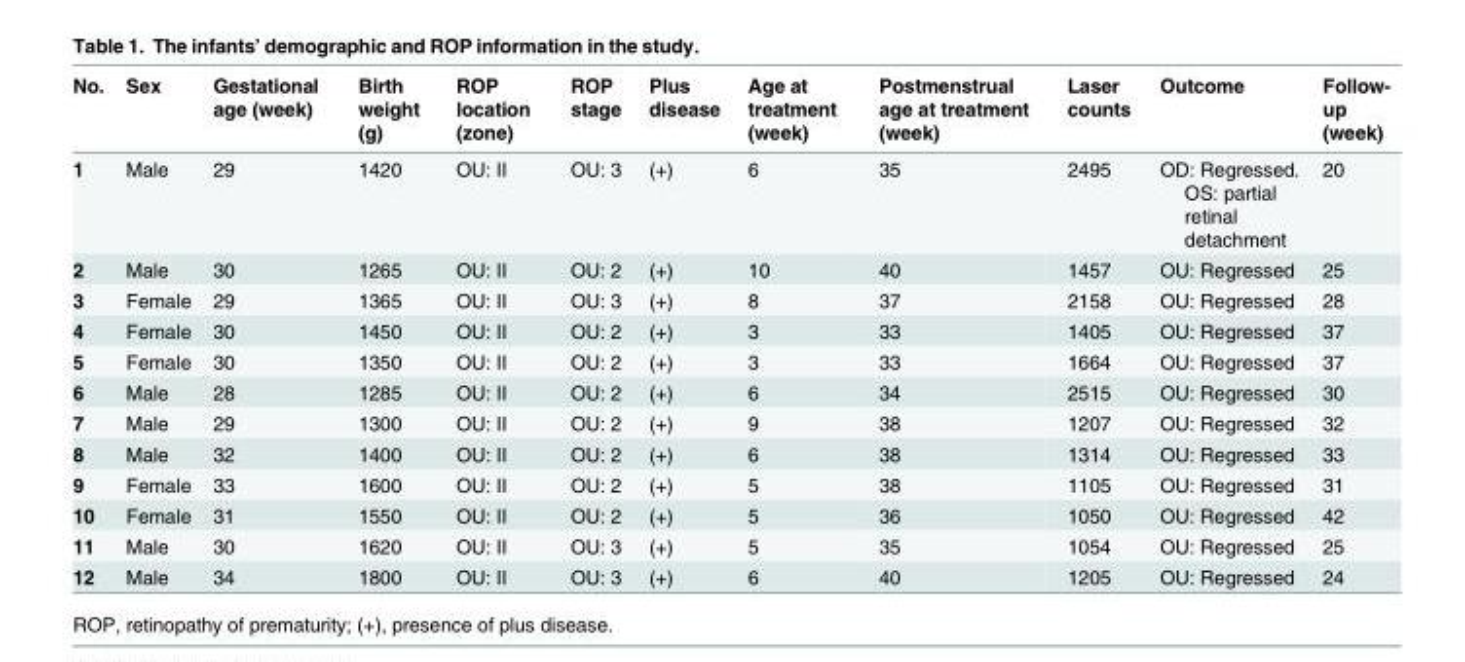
<table><thead><tr><td>No.</td><td>Sex</td><td>Gestational age (week)</td><td>Birth weight (g)</td><td>ROP location (zone)</td><td>ROP stage</td><td>Plus disease</td><td>Age at treatment (week)</td><td>Postmenstrual age at treatment (week)</td><td>Laser counts</td><td>Outcome</td><td>Follow- up (week)</td></tr></thead><tbody><tr><td>1</td><td>Male</td><td>29</td><td>1420</td><td>OU: II</td><td>OU: 3</td><td>(+)</td><td>6</td><td>35</td><td>2495</td><td>OD: Regressed. OS: partial retinal detachment</td><td>20</td></tr><tr><td>2</td><td>Male</td><td>30</td><td>1265</td><td>OU: II</td><td>OU: 2</td><td>(+)</td><td>10</td><td>40</td><td>1457</td><td>OU: Regressed</td><td>25</td></tr><tr><td>3</td><td>Female</td><td>29</td><td>1365</td><td>OU: II</td><td>OU: 3</td><td>(+)</td><td>8</td><td>37</td><td>2158</td><td>OU: Regressed</td><td>28</td></tr><tr><td>4</td><td>Female</td><td>30</td><td>1450</td><td>OU: II</td><td>OU: 2</td><td>(+)</td><td>3</td><td>33</td><td>1405</td><td>OU: Regressed</td><td>37</td></tr><tr><td>5</td><td>Female</td><td>30</td><td>1350</td><td>OU: II</td><td>OU: 2</td><td>(+)</td><td>3</td><td>33</td><td>1664</td><td>OU: Regressed</td><td>37</td></tr><tr><td>6</td><td>Male</td><td>28</td><td>1285</td><td>OU: II</td><td>OU: 2</td><td>(+)</td><td>6</td><td>34</td><td>2515</td><td>OU: Regressed</td><td>30</td></tr><tr><td>7</td><td>Male</td><td>29</td><td>1300</td><td>OU: II</td><td>OU: 2</td><td>(+)</td><td>9</td><td>38</td><td>1207</td><td>OU: Regressed</td><td>32</td></tr><tr><td>8</td><td>Male</td><td>32</td><td>1400</td><td>OU: II</td><td>OU: 2</td><td>(+)</td><td>6</td><td>38</td><td>1314</td><td>OU: Regressed</td><td>33</td></tr><tr><td>9</td><td>Female</td><td>33</td><td>1600</td><td>OU: II</td><td>OU: 2</td><td>(+)</td><td>5</td><td>38</td><td>1105</td><td>OU: Regressed</td><td>31</td></tr><tr><td>10</td><td>Female</td><td>31</td><td>1550</td><td>OU: II</td><td>OU: 2</td><td>(+)</td><td>5</td><td>36</td><td>1050</td><td>OU: Regressed</td><td>42</td></tr><tr><td>11</td><td>Male</td><td>30</td><td>1620</td><td>OU: II</td><td>OU: 3</td><td>(+)</td><td>5</td><td>35</td><td>1054</td><td>OU: Regressed</td><td>25</td></tr><tr><td>12</td><td>Male</td><td>34</td><td>1800</td><td>OU: II</td><td>OU: 3</td><td>(+)</td><td>6</td><td>40</td><td>1205</td><td>OU: Regressed</td><td>24</td></tr></tbody></table>